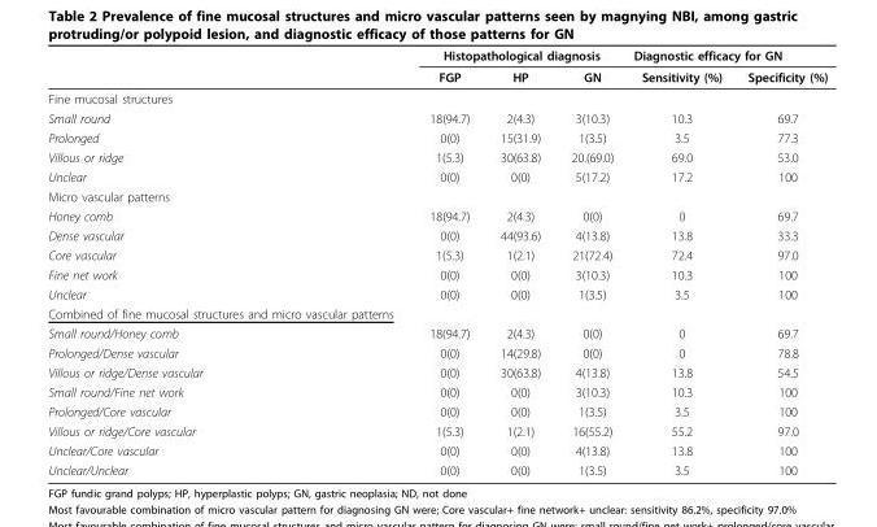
<table><thead><tr><td rowspan="2"></td><td colspan="3">Histopathological diagnosis</td><td colspan="2">Diagnostic efficacy for GN</td></tr><tr><td>FGP</td><td>HP</td><td>GN</td><td>Sensitivity (%)</td><td>Specificity (%)</td></tr></thead><tbody><tr><td colspan="6">Fine mucosal structures</td></tr><tr><td>Small round</td><td>18(94.7)</td><td>2(4.3)</td><td>3(10.3)</td><td>10.3</td><td>69.7</td></tr><tr><td>Prolonged</td><td>0(0)</td><td>15(31.9)</td><td>1(3.5)</td><td>3.5</td><td>77.3</td></tr><tr><td>Villous or ridge</td><td>1(5.3)</td><td>30(63.8)</td><td>20.(69.0)</td><td>69.0</td><td>53.0</td></tr><tr><td>Unclear</td><td>0(0)</td><td>0(0)</td><td>5(17.2)</td><td>17.2</td><td>100</td></tr><tr><td colspan="6">Micro vascular patterns</td></tr><tr><td>Honey comb</td><td>18(94.7)</td><td>2(4.3)</td><td>0(0)</td><td>0</td><td>69.7</td></tr><tr><td>Dense vascular</td><td>0(0)</td><td>44(93.6)</td><td>4(13.8)</td><td>13.8</td><td>33.3</td></tr><tr><td>Core vascular</td><td>1(5.3)</td><td>1(2.1)</td><td>21(72.4)</td><td>72.4</td><td>97.0</td></tr><tr><td>Fine net work</td><td>0(0)</td><td>0(0)</td><td>3(10.3)</td><td>10.3</td><td>100</td></tr><tr><td>Unclear</td><td>0(0)</td><td>0(0)</td><td>1(3.5)</td><td>3.5</td><td>100</td></tr><tr><td colspan="6">Combined of fine mucosal structures and micro vascular patterns</td></tr><tr><td>Small round/Honey comb</td><td>18(94.7)</td><td>2(4.3)</td><td>0(0)</td><td>0</td><td>69.7</td></tr><tr><td>Prolonged/Dense vascular</td><td>0(0)</td><td>14(29.8)</td><td>0(0)</td><td>0</td><td>78.8</td></tr><tr><td>Villous or ridge/Dense vascular</td><td>0(0)</td><td>30(63.8)</td><td>4(13.8)</td><td>13.8</td><td>54.5</td></tr><tr><td>Small round/Fine net work</td><td>0(0)</td><td>0(0)</td><td>3(10.3)</td><td>10.3</td><td>100</td></tr><tr><td>Prolonged/Core vascular</td><td>0(0)</td><td>0(0)</td><td>1(3.5)</td><td>3.5</td><td>100</td></tr><tr><td>Villous or ridge/Core vascular</td><td>1(5.3)</td><td>1(2.1)</td><td>16(55.2)</td><td>55.2</td><td>97.0</td></tr><tr><td>Unclear/Core vascular</td><td>0(0)</td><td>0(0)</td><td>4(13.8)</td><td>13.8</td><td>100</td></tr><tr><td>Unclear/Unclear</td><td>0(0)</td><td>0(0)</td><td>1(3.5)</td><td>3.5</td><td>100</td></tr></tbody></table>